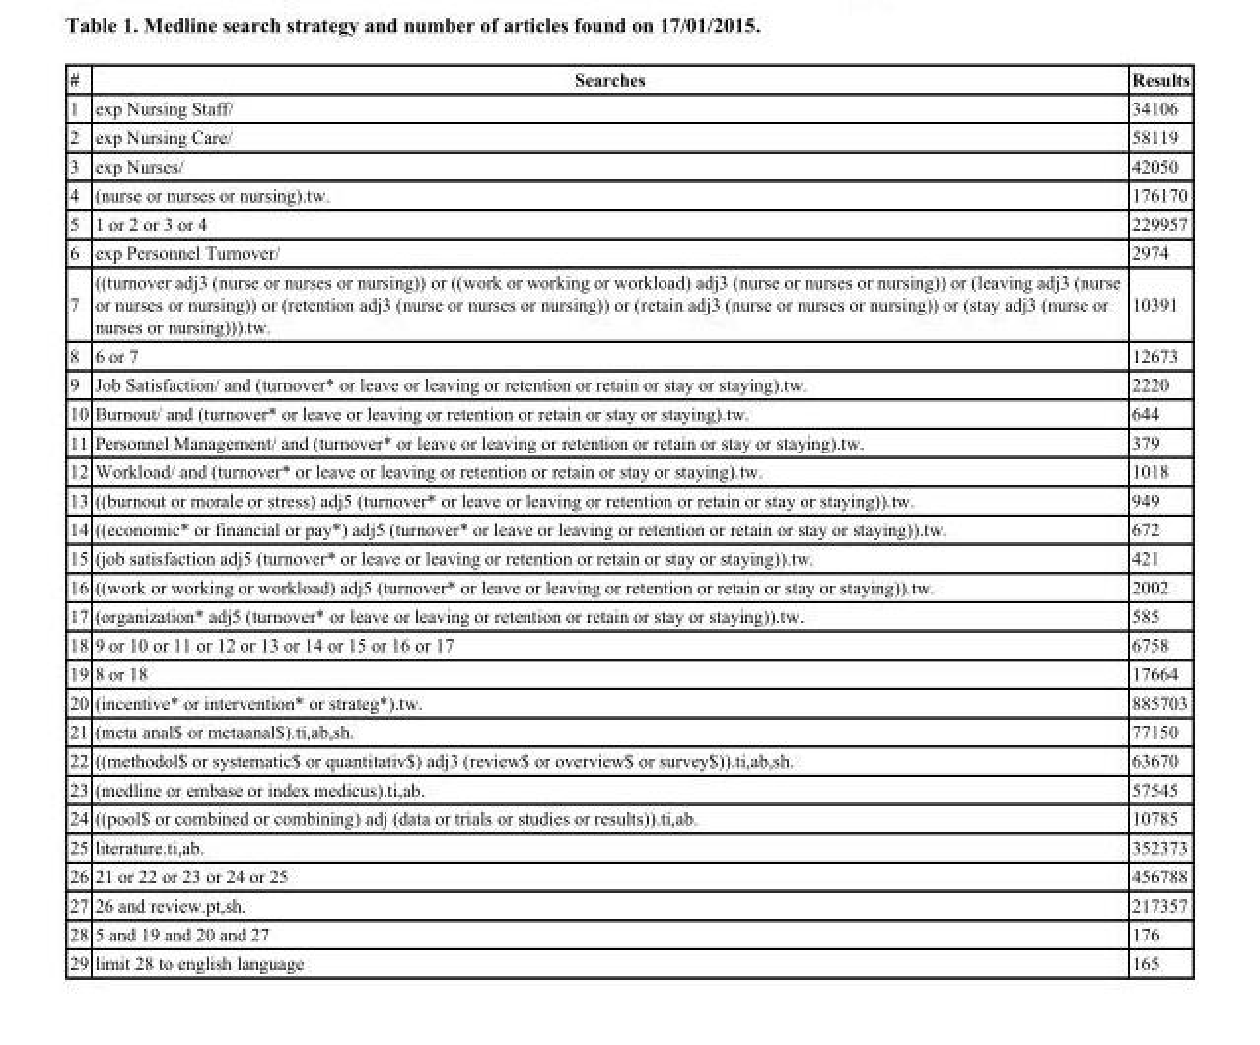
<table><thead><tr><td>#</td><td>Searches</td><td>Results</td></tr></thead><tbody><tr><td>1</td><td>exp Nursing Staff/</td><td>34106</td></tr><tr><td>2</td><td>exp Nursing Care/</td><td>58119</td></tr><tr><td>3</td><td>exp Nurses/</td><td>42050</td></tr><tr><td>4</td><td>(nurse or nurses or nursing).tw.</td><td>176170</td></tr><tr><td>5</td><td>1 or 2 or 3 or 4</td><td>229957</td></tr><tr><td>6</td><td>exp Personnel Turnover/</td><td>2974</td></tr><tr><td>7</td><td>((turnover adj3 (nurse or nurses or nursing)) or ((work or working or workload) adj3 (nurse or nurses or nursing)) or (leaving adj3 (nurse or nurses or nursing)) or (retention adj3 (nurse or nurses or nursing)) or (retain adj3 (nurse or nurses or nursing)) or (stay adj3 (nurse or nurses or nursing))).tw.</td><td>10391</td></tr><tr><td>8</td><td>6 or 7</td><td>12673</td></tr><tr><td>9</td><td>Job Satisfaction/ and (turnover* or leave or leaving or retention or retain or stay or staying).tw.</td><td>2220</td></tr><tr><td>10</td><td>Burnout/ and (turnover* or leave or leaving or retention or retain or stay or staying).tw.</td><td>644</td></tr><tr><td>11</td><td>Personnel Management/ and (turnover* or leave or leaving or retention or retain or stay or staying).tw.</td><td>379</td></tr><tr><td>12</td><td>Workload/ and (turnover* or leave or leaving or retention or retain or stay or staying).tw.</td><td>1018</td></tr><tr><td>13</td><td>((burnout or morale or stress) adj5 (turnover* or leave or leaving or retention or retain or stay or staying)).tw.</td><td>949</td></tr><tr><td>14</td><td>((economic* or financial or pay*) adj5 (turnover* or leave or leaving or retention or retain or stay or staying)).tw.</td><td>672</td></tr><tr><td>15</td><td>(job satisfaction adj5 (turnover* or leave or leaving or retention or retain or stay or staying)).tw.</td><td>421</td></tr><tr><td>16</td><td>((work or working or workload) adj5 (turnover* or leave or leaving or retention or retain or stay or staying)).tw.</td><td>2002</td></tr><tr><td>17</td><td>(organization* adj5 (turnover* or leave or leaving or retention or retain or stay or staying)).tw.</td><td>585</td></tr><tr><td>18</td><td>9 or 10 or 11 or 12 or 13 or 14 or 15 or 16 or 17</td><td>6758</td></tr><tr><td>19</td><td>8 or 18</td><td>17664</td></tr><tr><td>20</td><td>(incentive* or intervention* or strateg*).tw.</td><td>885703</td></tr><tr><td>21</td><td>(meta anal$ or metaanal$).ti,ab,sh.</td><td>77150</td></tr><tr><td>22</td><td>((methodol$ or systematic$ or quantitativ$) adj3 (review$ or overview$ or survey$)).ti,ab,sh.</td><td>63670</td></tr><tr><td>23</td><td>(medline or embase or index medicus).ti,ab.</td><td>57545</td></tr><tr><td>24</td><td>((pool$ or combined or combining) adj (data or trials or studies or results)).ti,ab.</td><td>10785</td></tr><tr><td>25</td><td>literature.ti,ab.</td><td>352373</td></tr><tr><td>26</td><td>21 or 22 or 23 or 24 or 25</td><td>456788</td></tr><tr><td>27</td><td>26 and review.pt,sh.</td><td>217357</td></tr><tr><td>28</td><td>5 and 19 and 20 and 27</td><td>176</td></tr><tr><td>29</td><td>limit 28 to english language</td><td>165</td></tr></tbody></table>